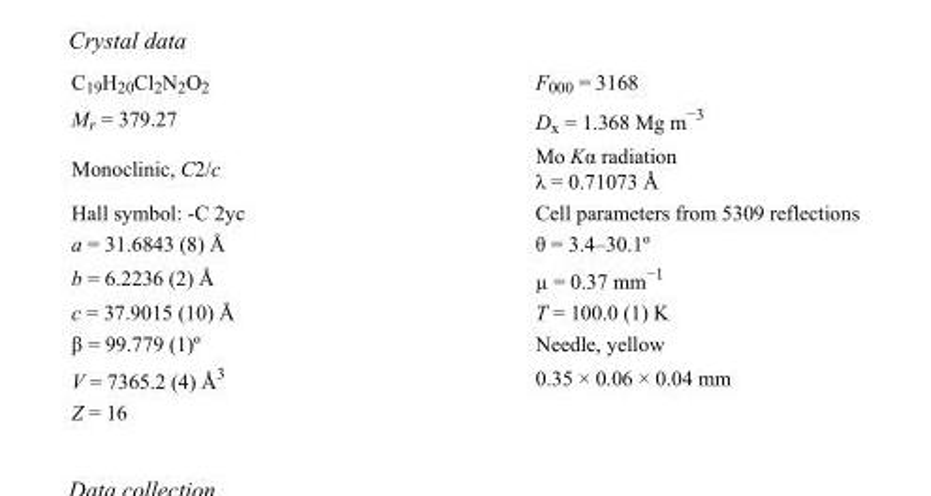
<table><tbody><tr><td>C<sub>19</sub>H<sub>20</sub>Cl<sub>2</sub>N<sub>2</sub>O<sub>2</sub></td><td>F000 = 3168</td></tr><tr><td>M<sub>r</sub> = 379.27</td><td>D<sub>x</sub> = 1.368 Mg m<sup>−3</sup></td></tr><tr><td>Monoclinic, C2/c</td><td>Mo Kα radiation λ = 0.71073 Å</td></tr><tr><td>Hall symbol: -C 2yc</td><td>Cell parameters from 5309 reflections</td></tr><tr><td>a = 31.6843 (8) Å</td><td>θ = 3.4–30.1º</td></tr><tr><td>b = 6.2236 (2) Å</td><td>µ = 0.37 mm<sup>−1</sup></td></tr><tr><td>c = 37.9015 (10) Å</td><td>T = 100.0 (1) K</td></tr><tr><td>β = 99.779 (1)º</td><td>Needle, yellow</td></tr><tr><td>V = 7365.2 (4) Å<sup>3</sup></td><td>0.35 × 0.06 × 0.04 mm</td></tr><tr><td>Z = 16</td><td></td></tr></tbody></table>